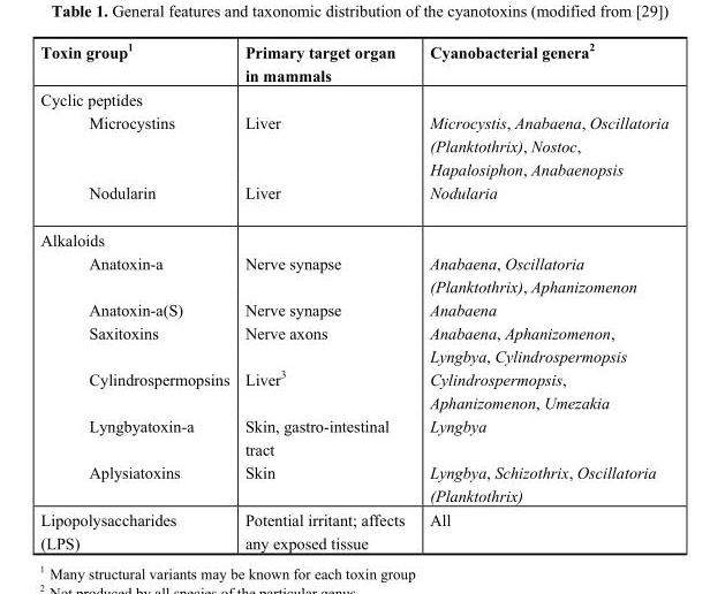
<table><thead><tr><td>Toxin group<sup>1</sup></td><td>Primary target organ in mammals</td><td>Cyanobacterial genera<sup>2</sup></td></tr></thead><tbody><tr><td colspan="3">Cyclic peptides</td></tr><tr><td>Microcystins</td><td>Liver</td><td>Microcystis, Anabaena, Oscillatoria (Planktothrix), Nostoc, Hapalosiphon, Anabaenopsis</td></tr><tr><td>Nodularin</td><td>Liver</td><td>Nodularia</td></tr><tr><td colspan="3">Alkaloids</td></tr><tr><td>Anatoxin-a</td><td>Nerve synapse</td><td>Anabaena, Oscillatoria (Planktothrix), Aphanizomenon</td></tr><tr><td>Anatoxin-a(S)</td><td>Nerve synapse</td><td>Anabaena</td></tr><tr><td>Saxitoxins</td><td>Nerve axons</td><td>Anabaena, Aphanizomenon, Lyngbya, Cylindrospermopsis</td></tr><tr><td>Cylindrospermopsins</td><td>Liver<sup>3</sup></td><td>Cylindrospermopsis, Aphanizomenon, Umezakia</td></tr><tr><td>Lyngbyatoxin-a</td><td>Skin, gastro-intestinal tract</td><td>Lyngbya</td></tr><tr><td>Aplysiatoxins</td><td>Skin</td><td>Lyngbya, Schizothrix, Oscillatoria (Planktothrix)</td></tr><tr><td>Lipopolysaccharides (LPS)</td><td>Potential irritant; affects any exposed tissue</td><td>All</td></tr></tbody></table>